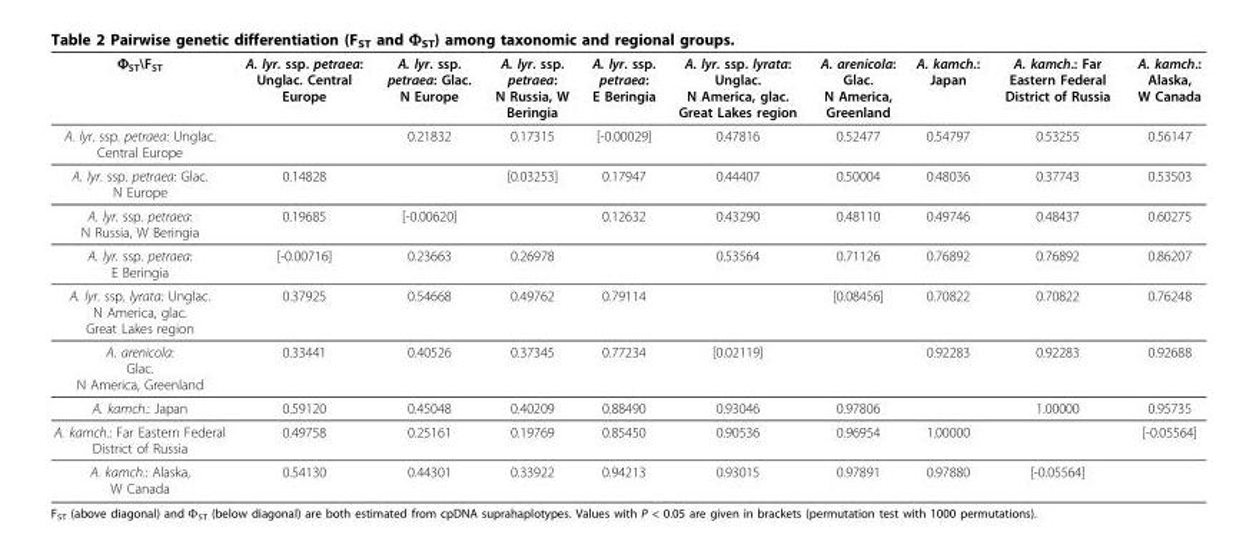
<table><thead><tr><td>Φ<sub>ST</sub>\F<sub>ST</sub></td><td>A. lyr. ssp. petraea: Unglac. Central Europe</td><td>A. lyr. ssp. petraea: Glac. N Europe</td><td>A. lyr. ssp. petraea: N Russia, W Beringia</td><td>A. lyr. ssp. petraea: E Beringia</td><td>A. lyr. ssp. lyrata: Unglac. N America, glac. Great Lakes region</td><td>A. arenicola: Glac. N America, Greenland</td><td>A. kamch.: Japan</td><td>A. kamch.: Far Eastern Federal District of Russia</td><td>A. kamch.: Alaska, W Canada</td></tr></thead><tbody><tr><td>A. lyr. ssp. petraea: Unglac. Central Europe</td><td></td><td>0.21832</td><td>0.17315</td><td>[-0.00029]</td><td>0.47816</td><td>0.52477</td><td>0.54797</td><td>0.53255</td><td>0.56147</td></tr><tr><td>A. lyr. ssp. petraea: Glac. N Europe</td><td>0.14828</td><td></td><td>[0.03253]</td><td>0.17947</td><td>0.44407</td><td>0.50004</td><td>0.48036</td><td>0.37743</td><td>0.53503</td></tr><tr><td>A. lyr. ssp. petraea: N Russia, W Beringia</td><td>0.19685</td><td>[-0.00620]</td><td></td><td>0.12632</td><td>0.43290</td><td>0.48110</td><td>0.49746</td><td>0.48437</td><td>0.60275</td></tr><tr><td>A. lyr. ssp. petraea: E Beringia</td><td>[-0.00716]</td><td>0.23663</td><td>0.26978</td><td></td><td>0.53564</td><td>0.71126</td><td>0.76892</td><td>0.76892</td><td>0.86207</td></tr><tr><td>A. lyr. ssp. lyrata: Unglac. N America, glac. Great Lakes region</td><td>0.37925</td><td>0.54668</td><td>0.49762</td><td>0.79114</td><td></td><td>[0.08456]</td><td>0.70822</td><td>0.70822</td><td>0.76248</td></tr><tr><td>A. arenicola: Glac. N America, Greenland</td><td>0.33441</td><td>0.40526</td><td>0.37345</td><td>0.77234</td><td>[0.02119]</td><td></td><td>0.92283</td><td>0.92283</td><td>0.92688</td></tr><tr><td>A. kamch.: Japan</td><td>0.59120</td><td>0.45048</td><td>0.40209</td><td>0.88490</td><td>0.93046</td><td>0.97806</td><td></td><td>1.00000</td><td>0.95735</td></tr><tr><td>A. kamch.: Far Eastern Federal District of Russia</td><td>0.49758</td><td>0.25161</td><td>0.19769</td><td>0.85450</td><td>0.90536</td><td>0.96954</td><td>1.00000</td><td></td><td>[-0.05564]</td></tr><tr><td>A. kamch.: Alaska, W Canada</td><td>0.54130</td><td>0.44301</td><td>0.33922</td><td>0.94213</td><td>0.93015</td><td>0.97891</td><td>0.97880</td><td>[-0.05564]</td><td></td></tr></tbody></table>